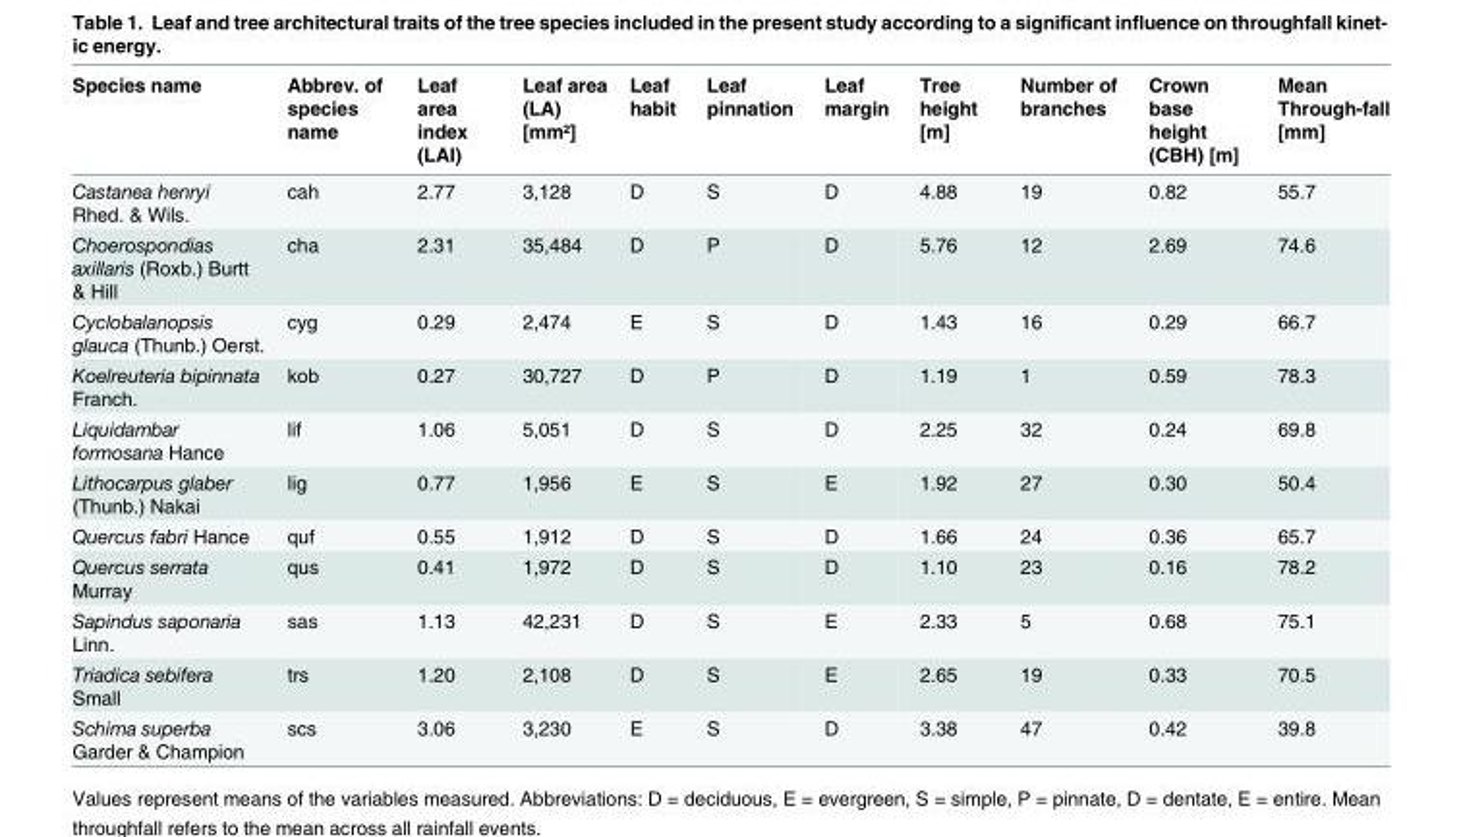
<table><thead><tr><td>Species name</td><td>Abbrev. of species name</td><td>Leaf area index (LAI)</td><td>Leaf area (LA) [mm²]</td><td>Leaf habit</td><td>Leaf pinnation</td><td>Leaf margin</td><td>Tree height [m]</td><td>Number of branches</td><td>Crown base height (CBH) [m]</td><td>Mean Through-fall [mm]</td></tr></thead><tbody><tr><td>Castanea henryi Rhed. &amp; Wils.</td><td>cah</td><td>2.77</td><td>3,128</td><td>D</td><td>S</td><td>D</td><td>4.88</td><td>19</td><td>0.82</td><td>55.7</td></tr><tr><td>Choerospondias axillaris (Roxb.) Burtt &amp; Hill</td><td>cha</td><td>2.31</td><td>35,484</td><td>D</td><td>P</td><td>D</td><td>5.76</td><td>12</td><td>2.69</td><td>74.6</td></tr><tr><td>Cyclobalanopsis glauca (Thunb.) Oerst.</td><td>cyg</td><td>0.29</td><td>2,474</td><td>E</td><td>S</td><td>D</td><td>1.43</td><td>16</td><td>0.29</td><td>66.7</td></tr><tr><td>Koelreuteria bipinnata Franch.</td><td>kob</td><td>0.27</td><td>30,727</td><td>D</td><td>P</td><td>D</td><td>1.19</td><td>1</td><td>0.59</td><td>78.3</td></tr><tr><td>Liquidambar formosana Hance</td><td>lif</td><td>1.06</td><td>5,051</td><td>D</td><td>S</td><td>D</td><td>2.25</td><td>32</td><td>0.24</td><td>69.8</td></tr><tr><td>Lithocarpus glaber (Thunb.) Nakai</td><td>lig</td><td>0.77</td><td>1,956</td><td>E</td><td>S</td><td>E</td><td>1.92</td><td>27</td><td>0.30</td><td>50.4</td></tr><tr><td>Quercus fabri Hance</td><td>quf</td><td>0.55</td><td>1,912</td><td>D</td><td>S</td><td>D</td><td>1.66</td><td>24</td><td>0.36</td><td>65.7</td></tr><tr><td>Quercus serrata Murray</td><td>qus</td><td>0.41</td><td>1,972</td><td>D</td><td>S</td><td>D</td><td>1.10</td><td>23</td><td>0.16</td><td>78.2</td></tr><tr><td>Sapindus saponaria Linn.</td><td>sas</td><td>1.13</td><td>42,231</td><td>D</td><td>S</td><td>E</td><td>2.33</td><td>5</td><td>0.68</td><td>75.1</td></tr><tr><td>Triadica sebifera Small</td><td>trs</td><td>1.20</td><td>2,108</td><td>D</td><td>S</td><td>E</td><td>2.65</td><td>19</td><td>0.33</td><td>70.5</td></tr><tr><td>Schima superba Garder &amp; Champion</td><td>scs</td><td>3.06</td><td>3,230</td><td>E</td><td>S</td><td>D</td><td>3.38</td><td>47</td><td>0.42</td><td>39.8</td></tr></tbody></table>